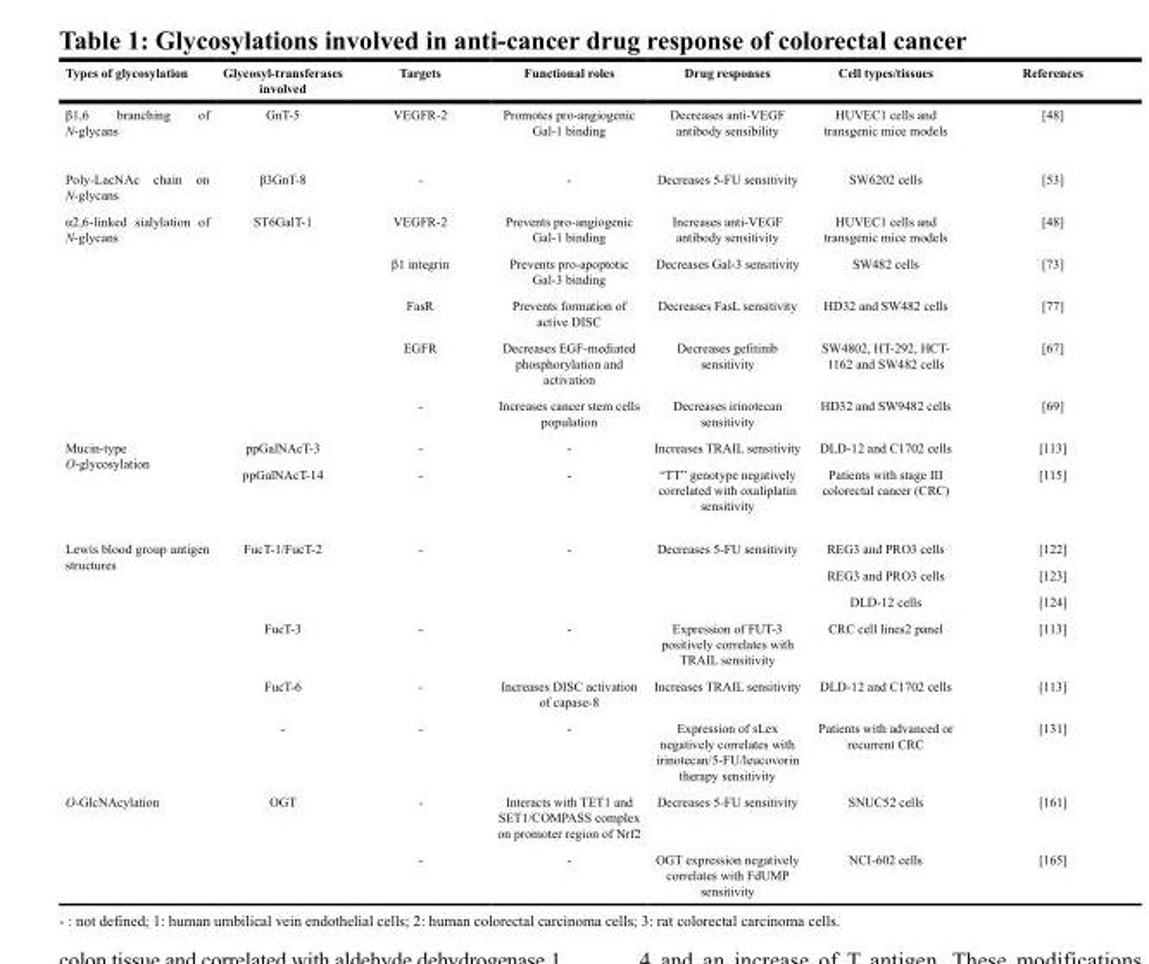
<table><thead><tr><td>Types of glycosylation</td><td>Glycosyl-transferases involved</td><td>Targets</td><td>Functional roles</td><td>Drug responses</td><td>Cell types/tissues</td><td>References</td></tr></thead><tbody><tr><td>β1,6 branching of N-glycans</td><td>GnT-5</td><td>VEGFR-2</td><td>Promotes pro-angiogenic Gal-1 binding</td><td>Decreases anti-VEGF antibody sensibility</td><td>HUVEC1 cells and transgenic mice models</td><td>[48]</td></tr><tr><td>Poly-LacNAc chain on N-glycans</td><td>β3GnT-8</td><td>-</td><td>-</td><td>Decreases 5-FU sensitivity</td><td>SW6202 cells</td><td>[53]</td></tr><tr><td rowspan="5">α2,6-linked sialylation of N-glycans</td><td rowspan="5">ST6GalT-1</td><td>VEGFR-2</td><td>Prevents pro-angiogenic Gal-1 binding</td><td>Increases anti-VEGF antibody sensitivity</td><td>HUVEC1 cells and transgenic mice models</td><td>[48]</td></tr><tr><td>β1 integrin</td><td>Prevents pro-apoptotic Gal-3 binding</td><td>Decreases Gal-3 sensitivity</td><td>SW482 cells</td><td>[73]</td></tr><tr><td>FasR</td><td>Prevents formation of active DISC</td><td>Decreases FasL sensitivity</td><td>HD32 and SW482 cells</td><td>[77]</td></tr><tr><td>EGFR</td><td>Decreases EGF-mediated phosphorylation and activation</td><td>Decreases gefitinib sensitivity</td><td>SW4802, HT-292, HCT- 1162 and SW482 cells</td><td>[67]</td></tr><tr><td>-</td><td>Increases cancer stem cells population</td><td>Decreases irinotecan sensitivity</td><td>HD32 and SW9482 cells</td><td>[69]</td></tr><tr><td rowspan="2">Mucin-type O-glycosylation</td><td>ppGalNAcT-3</td><td>-</td><td>-</td><td>Increases TRAIL sensitivity</td><td>DLD-12 and C1702 cells</td><td>[113]</td></tr><tr><td>ppGalNAcT-14</td><td>-</td><td>-</td><td>“TT” genotype negatively correlated with oxaliplatin sensitivity</td><td>Patients with stage III colorectal cancer (CRC)</td><td>[115]</td></tr><tr><td rowspan="6">Lewis blood group antigen structures</td><td rowspan="3">FucT-1/FucT-2</td><td rowspan="3">-</td><td rowspan="3">-</td><td rowspan="3">Decreases 5-FU sensitivity</td><td>REG3 and PRO3 cells</td><td>[122]</td></tr><tr><td>REG3 and PRO3 cells</td><td>[123]</td></tr><tr><td>DLD-12 cells</td><td>[124]</td></tr><tr><td>FucT-3</td><td>-</td><td>-</td><td>Expression of FUT-3 positively correlates with TRAIL sensitivity</td><td>CRC cell lines2 panel</td><td>[113]</td></tr><tr><td>FucT-6</td><td>-</td><td>Increases DISC activation of capase-8</td><td>Increases TRAIL sensitivity</td><td>DLD-12 and C1702 cells</td><td>[113]</td></tr><tr><td>-</td><td>-</td><td>-</td><td>Expression of sLex negatively correlates with irinotecan/5-FU/leucovorin therapy sensitivity</td><td>Patients with advanced or recurrent CRC</td><td>[131]</td></tr><tr><td rowspan="2">O-GlcNAcylation</td><td rowspan="2">OGT</td><td>-</td><td>Interacts with TET1 and SET1/COMPASS complex on promoter region of Nrf2</td><td>Decreases 5-FU sensitivity</td><td>SNUC52 cells</td><td>[161]</td></tr><tr><td>-</td><td>-</td><td>OGT expression negatively correlates with FdUMP sensitivity</td><td>NCI-602 cells</td><td>[165]</td></tr></tbody></table>